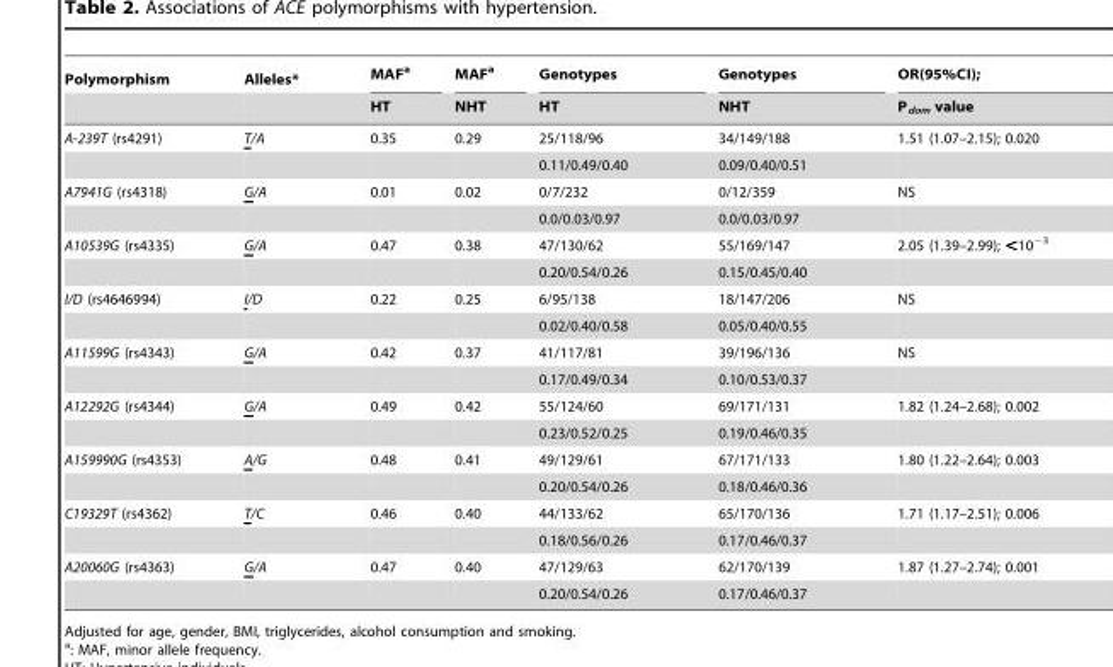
<table><thead><tr><td rowspan="2">Polymorphism</td><td rowspan="2">Alleles*</td><td rowspan="2">MAF<sup>a</sup> HT</td><td rowspan="2">MAF<sup>a</sup> NHT</td><td rowspan="2">Genotypes HT</td><td rowspan="2">Genotypes NHT</td><td rowspan="2">OR(95%CI); P<sub>dom</sub> value</td></tr><tr></tr></thead><tbody><tr><td rowspan="2">A-239T (rs4291)</td><td>T/A</td><td>0.35</td><td>0.29</td><td>25/118/96</td><td>34/149/188</td><td>1.51 (1.07–2.15); 0.020</td></tr><tr><td></td><td></td><td></td><td>0.11/0.49/0.40</td><td>0.09/0.40/0.51</td><td></td></tr><tr><td rowspan="2">A7941G (rs4318)</td><td>G/A</td><td>0.01</td><td>0.02</td><td>0/7/232</td><td>0/12/359</td><td>NS</td></tr><tr><td></td><td></td><td></td><td>0.0/0.03/0.97</td><td>0.0/0.03/0.97</td><td></td></tr><tr><td rowspan="2">A10539G (rs4335)</td><td>G/A</td><td>0.47</td><td>0.38</td><td>47/130/62</td><td>55/169/147</td><td>2.05 (1.39–2.99); &lt;10<sup>−3</sup></td></tr><tr><td></td><td></td><td></td><td>0.20/0.54/0.26</td><td>0.15/0.45/0.40</td><td></td></tr><tr><td rowspan="2">I/D (rs4646994)</td><td>I/D</td><td>0.22</td><td>0.25</td><td>6/95/138</td><td>18/147/206</td><td>NS</td></tr><tr><td></td><td></td><td></td><td>0.02/0.40/0.58</td><td>0.05/0.40/0.55</td><td></td></tr><tr><td rowspan="2">A11599G (rs4343)</td><td>G/A</td><td>0.42</td><td>0.37</td><td>41/117/81</td><td>39/196/136</td><td>NS</td></tr><tr><td></td><td></td><td></td><td>0.17/0.49/0.34</td><td>0.10/0.53/0.37</td><td></td></tr><tr><td rowspan="2">A12292G (rs4344)</td><td>G/A</td><td>0.49</td><td>0.42</td><td>55/124/60</td><td>69/171/131</td><td>1.82 (1.24–2.68); 0.002</td></tr><tr><td></td><td></td><td></td><td>0.23/0.52/0.25</td><td>0.19/0.46/0.35</td><td></td></tr><tr><td rowspan="2">A159990G (rs4353)</td><td>A/G</td><td>0.48</td><td>0.41</td><td>49/129/61</td><td>67/171/133</td><td>1.80 (1.22–2.64); 0.003</td></tr><tr><td></td><td></td><td></td><td>0.20/0.54/0.26</td><td>0.18/0.46/0.36</td><td></td></tr><tr><td rowspan="2">C19329T (rs4362)</td><td>T/C</td><td>0.46</td><td>0.40</td><td>44/133/62</td><td>65/170/136</td><td>1.71 (1.17–2.51); 0.006</td></tr><tr><td></td><td></td><td></td><td>0.18/0.56/0.26</td><td>0.17/0.46/0.37</td><td></td></tr><tr><td rowspan="2">A20060G (rs4363)</td><td>G/A</td><td>0.47</td><td>0.40</td><td>47/129/63</td><td>62/170/139</td><td>1.87 (1.27–2.74); 0.001</td></tr><tr><td></td><td></td><td></td><td>0.20/0.54/0.26</td><td>0.17/0.46/0.37</td><td></td></tr></tbody></table>